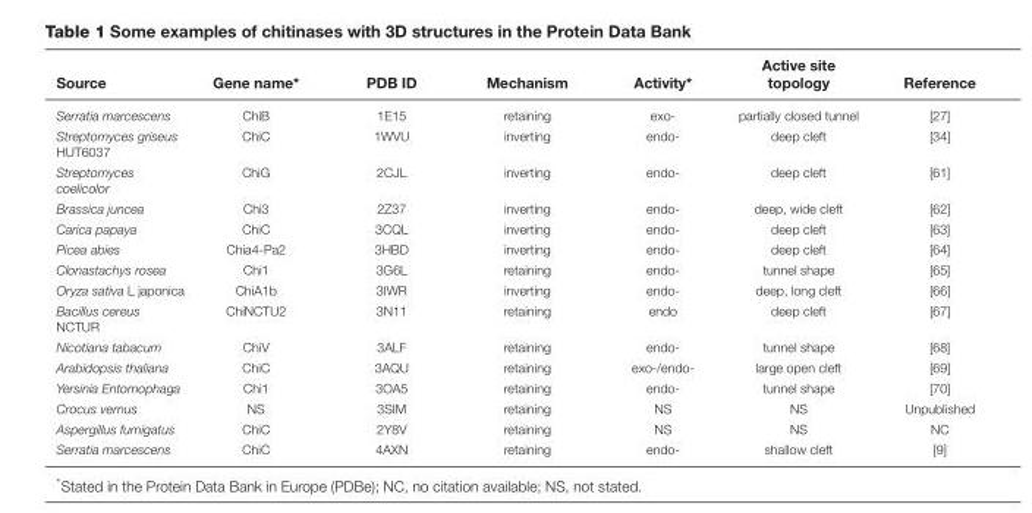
<table><thead><tr><td>Source</td><td>Gene name*</td><td>PDB ID</td><td>Mechanism</td><td>Activity*</td><td>Active site topology</td><td>Reference</td></tr></thead><tbody><tr><td>Serratia marcescens</td><td>ChiB</td><td>1E15</td><td>retaining</td><td>exo-</td><td>partially closed tunnel</td><td>[27]</td></tr><tr><td>Streptomyces griseus HUT6037</td><td>ChiC</td><td>1WVU</td><td>inverting</td><td>endo-</td><td>deep cleft</td><td>[34]</td></tr><tr><td>Streptomyces coelicolor</td><td>ChiG</td><td>2CJL</td><td>inverting</td><td>endo-</td><td>deep cleft</td><td>[61]</td></tr><tr><td>Brassica juncea</td><td>Chi3</td><td>2Z37</td><td>inverting</td><td>endo-</td><td>deep, wide cleft</td><td>[62]</td></tr><tr><td>Carica papaya</td><td>ChiC</td><td>3CQL</td><td>inverting</td><td>endo-</td><td>deep cleft</td><td>[63]</td></tr><tr><td>Picea abies</td><td>Chia4-Pa2</td><td>3HBD</td><td>inverting</td><td>endo-</td><td>deep cleft</td><td>[64]</td></tr><tr><td>Clonastachys rosea</td><td>Chi1</td><td>3G6L</td><td>retaining</td><td>endo-</td><td>tunnel shape</td><td>[65]</td></tr><tr><td>Oryza sativa L japonica</td><td>ChiA1b</td><td>3IWR</td><td>inverting</td><td>endo-</td><td>deep, long cleft</td><td>[66]</td></tr><tr><td>Bacillus cereus NCTUR</td><td>ChiNCTU2</td><td>3N11</td><td>retaining</td><td>endo</td><td>deep cleft</td><td>[67]</td></tr><tr><td>Nicotiana tabacum</td><td>ChiV</td><td>3ALF</td><td>retaining</td><td>endo-</td><td>tunnel shape</td><td>[68]</td></tr><tr><td>Arabidopsis thaliana</td><td>ChiC</td><td>3AQU</td><td>retaining</td><td>exo-/endo-</td><td>large open cleft</td><td>[69]</td></tr><tr><td>Yersinia Entomophaga</td><td>Chi1</td><td>3OA5</td><td>retaining</td><td>endo-</td><td>tunnel shape</td><td>[70]</td></tr><tr><td>Crocus vernus</td><td>NS</td><td>3SIM</td><td>retaining</td><td>NS</td><td>NS</td><td>Unpublished</td></tr><tr><td>Aspergillus fumigatus</td><td>ChiC</td><td>2Y8V</td><td>retaining</td><td>NS</td><td>NS</td><td>NC</td></tr><tr><td>Serratia marcescens</td><td>ChiC</td><td>4AXN</td><td>retaining</td><td>endo-</td><td>shallow cleft</td><td>[9]</td></tr></tbody></table>